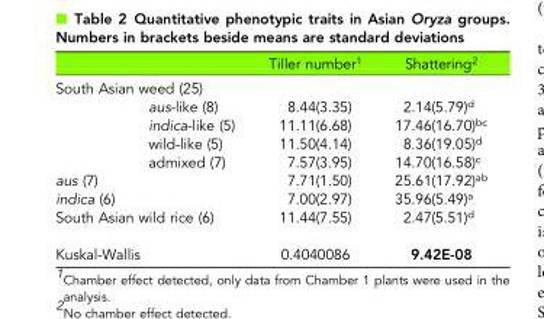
<table><thead><tr><td></td><td></td><td>Tiller number<sup>1</sup></td><td>Shattering<sup>2</sup></td></tr></thead><tbody><tr><td colspan="4">South Asian weed (25)</td></tr><tr><td></td><td>aus-like (8)</td><td>8.44(3.35)</td><td>2.14(5.79)<sup>d</sup></td></tr><tr><td></td><td>indica-like (5)</td><td>11.11(6.68)</td><td>17.46(16.70)<sup>bc</sup></td></tr><tr><td></td><td>wild-like (5)</td><td>11.50(4.14)</td><td>8.36(19.05)<sup>d</sup></td></tr><tr><td></td><td>admixed (7)</td><td>7.57(3.95)</td><td>14.70(16.58)<sup>c</sup></td></tr><tr><td>aus (7)</td><td></td><td>7.71(1.50)</td><td>25.61(17.92)<sup>ab</sup></td></tr><tr><td>indica (6)</td><td></td><td>7.00(2.97)</td><td>35.96(5.49)<sup>a</sup></td></tr><tr><td colspan="2">South Asian wild rice (6)</td><td>11.44(7.55)</td><td>2.47(5.51)<sup>d</sup></td></tr><tr><td colspan="2">Kuskal-Wallis</td><td>0.4040086</td><td>9.42E-08</td></tr></tbody></table>